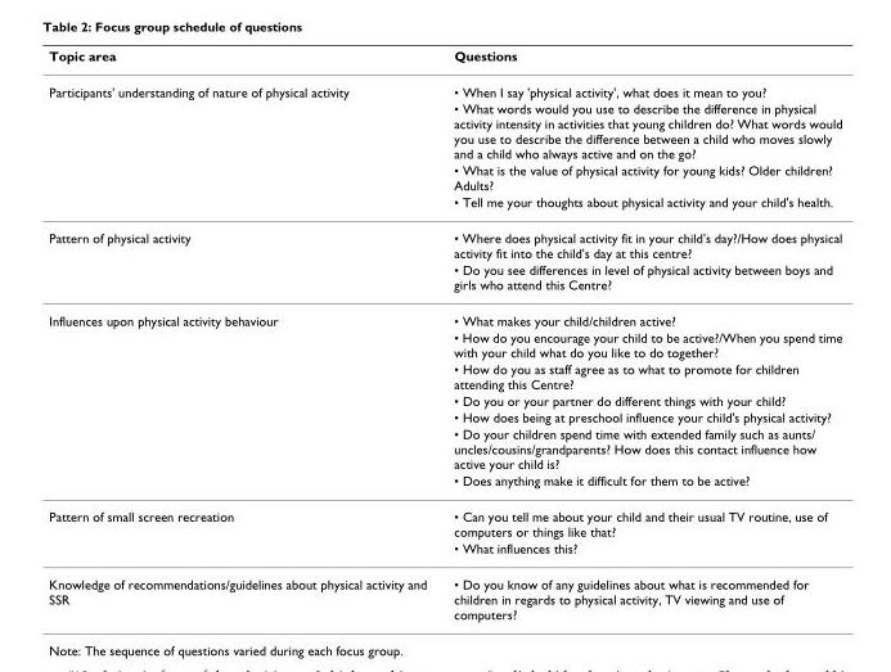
<table><thead><tr><td>Topic area</td><td>Questions</td></tr></thead><tbody><tr><td rowspan="4">Participants&#x27; understanding of nature of physical activity</td><td>• When I say &#x27;physical activity&#x27;, what does it mean to you?</td></tr><tr><td>• What words would you use to describe the difference in physical activity intensity in activities that young children do? What words would you use to describe the difference between a child who moves slowly and a child who always active and on the go?</td></tr><tr><td>• What is the value of physical activity for young kids? Older children? Adults?</td></tr><tr><td>• Tell me your thoughts about physical activity and your child&#x27;s health.</td></tr><tr><td rowspan="2">Pattern of physical activity</td><td>• Where does physical activity fit in your child&#x27;s day?/How does physical activity fit into the child&#x27;s day at this centre?</td></tr><tr><td>• Do you see differences in level of physical activity between boys and girls who attend this Centre?</td></tr><tr><td rowspan="7">Influences upon physical activity behaviour</td><td>• What makes your child/children active?</td></tr><tr><td>• How do you encourage your child to be active?/When you spend time with your child what do you like to do together?</td></tr><tr><td>• How do you as staff agree as to what to promote for children attending this Centre?</td></tr><tr><td>• Do you or your partner do different things with your child?</td></tr><tr><td>• How does being at preschool influence your child&#x27;s physical activity?</td></tr><tr><td>• Do your children spend time with extended family such as aunts/ uncles/cousins/grandparents? How does this contact influence how active your child is?</td></tr><tr><td>• Does anything make it difficult for them to be active?</td></tr><tr><td rowspan="2">Pattern of small screen recreation</td><td>• Can you tell me about your child and their usual TV routine, use of computers or things like that?</td></tr><tr><td>• What influences this?</td></tr><tr><td>Knowledge of recommendations/guidelines about physical activity and SSR</td><td>• Do you know of any guidelines about what is recommended for children in regards to physical activity, TV viewing and use of computers?</td></tr></tbody></table>